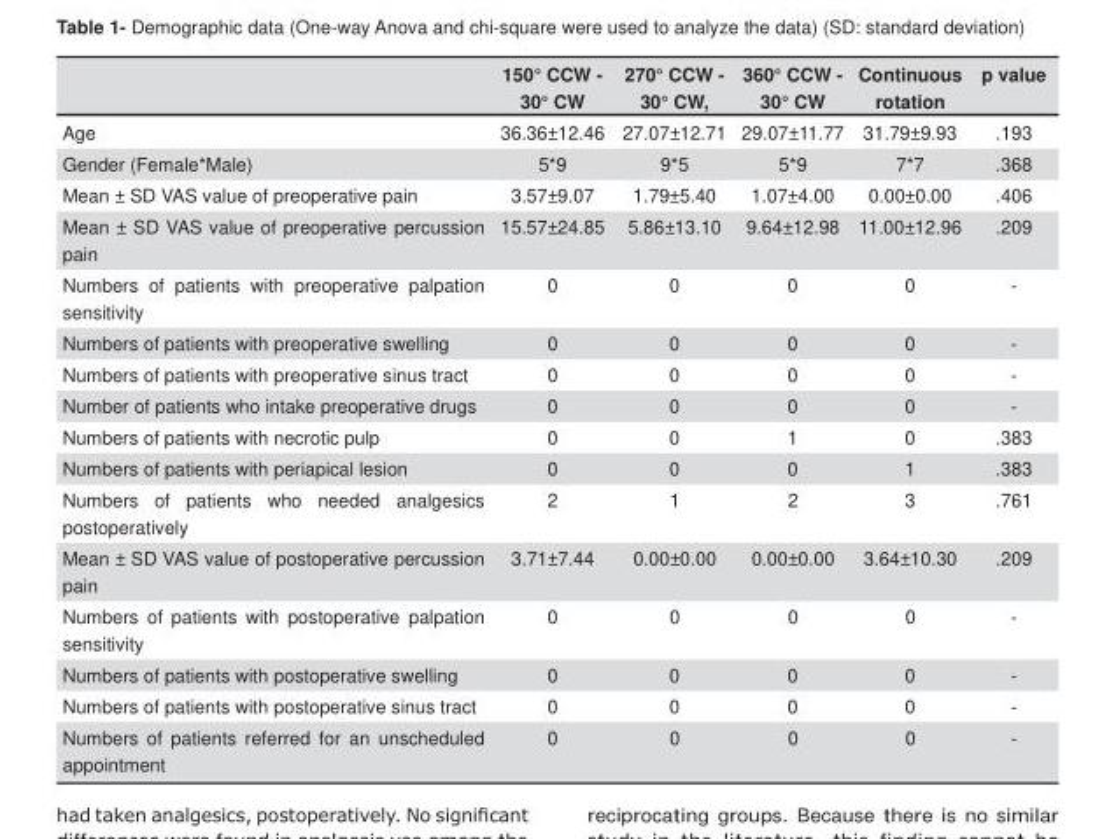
<table><thead><tr><td></td><td>150° CCW - 30° CW</td><td>270° CCW - 30° CW,</td><td>360° CCW - 30° CW</td><td>Continuous rotation</td><td>p value</td></tr></thead><tbody><tr><td>Age</td><td>36.36±12.46</td><td>27.07±12.71</td><td>29.07±11.77</td><td>31.79±9.93</td><td>.193</td></tr><tr><td>Gender (Female*Male)</td><td>5*9</td><td>9*5</td><td>5*9</td><td>7*7</td><td>.368</td></tr><tr><td>Mean ± SD VAS value of preoperative pain</td><td>3.57±9.07</td><td>1.79±5.40</td><td>1.07±4.00</td><td>0.00±0.00</td><td>.406</td></tr><tr><td>Mean ± SD VAS value of preoperative percussion pain</td><td>15.57±24.85</td><td>5.86±13.10</td><td>9.64±12.98</td><td>11.00±12.96</td><td>.209</td></tr><tr><td>Numbers of patients with preoperative palpation sensitivity</td><td>0</td><td>0</td><td>0</td><td>0</td><td>-</td></tr><tr><td>Numbers of patients with preoperative swelling</td><td>0</td><td>0</td><td>0</td><td>0</td><td>-</td></tr><tr><td>Numbers of patients with preoperative sinus tract</td><td>0</td><td>0</td><td>0</td><td>0</td><td>-</td></tr><tr><td>Number of patients who intake preoperative drugs</td><td>0</td><td>0</td><td>0</td><td>0</td><td>-</td></tr><tr><td>Numbers of patients with necrotic pulp</td><td>0</td><td>0</td><td>1</td><td>0</td><td>.383</td></tr><tr><td>Numbers of patients with periapical lesion</td><td>0</td><td>0</td><td>0</td><td>1</td><td>.383</td></tr><tr><td>Numbers of patients who needed analgesics postoperatively</td><td>2</td><td>1</td><td>2</td><td>3</td><td>.761</td></tr><tr><td>Mean ± SD VAS value of postoperative percussion pain</td><td>3.71±7.44</td><td>0.00±0.00</td><td>0.00±0.00</td><td>3.64±10.30</td><td>.209</td></tr><tr><td>Numbers of patients with postoperative palpation sensitivity</td><td>0</td><td>0</td><td>0</td><td>0</td><td>-</td></tr><tr><td>Numbers of patients with postoperative swelling</td><td>0</td><td>0</td><td>0</td><td>0</td><td>-</td></tr><tr><td>Numbers of patients with postoperative sinus tract</td><td>0</td><td>0</td><td>0</td><td>0</td><td>-</td></tr><tr><td>Numbers of patients referred for an unscheduled appointment</td><td>0</td><td>0</td><td>0</td><td>0</td><td>-</td></tr></tbody></table>